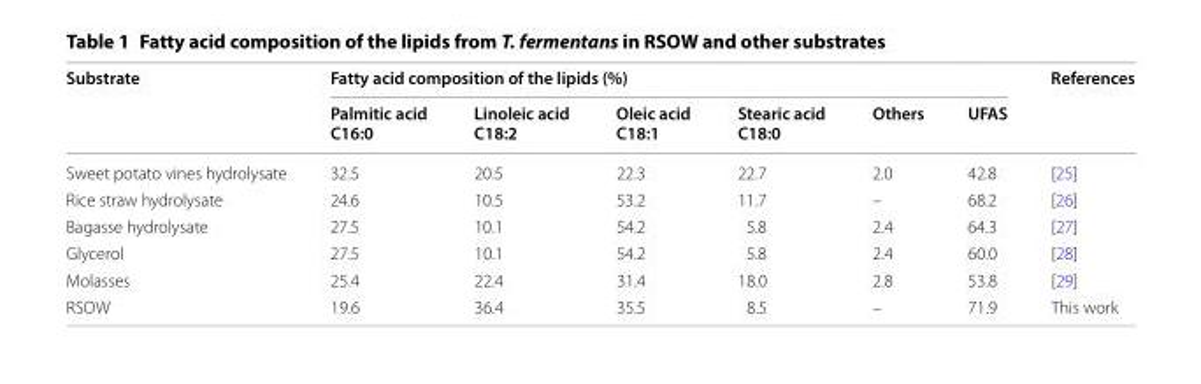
<table><thead><tr><td rowspan="2">Substrate</td><td colspan="6">Fatty acid composition of the lipids (%)</td><td rowspan="2">References</td></tr><tr><td>Palmitic acid C16:0</td><td>Linoleic acid C18:2</td><td>Oleic acid C18:1</td><td>Stearic acid C18:0</td><td>Others</td><td>UFAS</td></tr></thead><tbody><tr><td>Sweet potato vines hydrolysate</td><td>32.5</td><td>20.5</td><td>22.3</td><td>22.7</td><td>2.0</td><td>42.8</td><td>[25]</td></tr><tr><td>Rice straw hydrolysate</td><td>24.6</td><td>10.5</td><td>53.2</td><td>11.7</td><td>–</td><td>68.2</td><td>[26]</td></tr><tr><td>Bagasse hydrolysate</td><td>27.5</td><td>10.1</td><td>54.2</td><td>5.8</td><td>2.4</td><td>64.3</td><td>[27]</td></tr><tr><td>Glycerol</td><td>27.5</td><td>10.1</td><td>54.2</td><td>5.8</td><td>2.4</td><td>60.0</td><td>[28]</td></tr><tr><td>Molasses</td><td>25.4</td><td>22.4</td><td>31.4</td><td>18.0</td><td>2.8</td><td>53.8</td><td>[29]</td></tr><tr><td>RSOW</td><td>19.6</td><td>36.4</td><td>35.5</td><td>8.5</td><td>–</td><td>71.9</td><td>This work</td></tr></tbody></table>